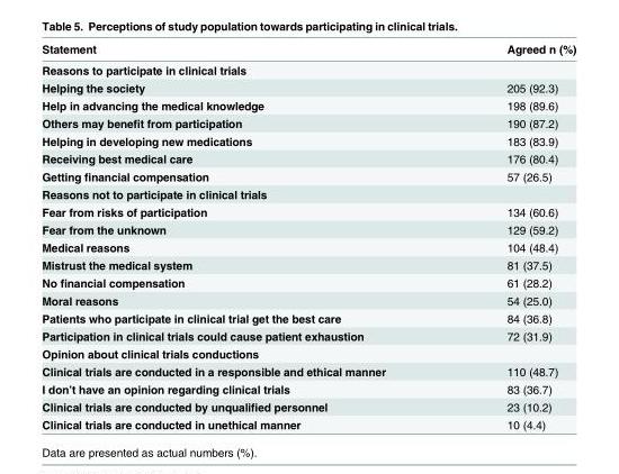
<table><thead><tr><td>Statement</td><td>Agreed n (%)</td></tr></thead><tbody><tr><td colspan="2">Reasons to participate in clinical trials</td></tr><tr><td>Helping the society</td><td>205 (92.3)</td></tr><tr><td>Help in advancing the medical knowledge</td><td>198 (89.6)</td></tr><tr><td>Others may benefit from participation</td><td>190 (87.2)</td></tr><tr><td>Helping in developing new medications</td><td>183 (83.9)</td></tr><tr><td>Receiving best medical care</td><td>176 (80.4)</td></tr><tr><td>Getting financial compensation</td><td>57 (26.5)</td></tr><tr><td colspan="2">Reasons not to participate in clinical trials</td></tr><tr><td>Fear from risks of participation</td><td>134 (60.6)</td></tr><tr><td>Fear from the unknown</td><td>129 (59.2)</td></tr><tr><td>Medical reasons</td><td>104 (48.4)</td></tr><tr><td>Mistrust the medical system</td><td>81 (37.5)</td></tr><tr><td>No financial compensation</td><td>61 (28.2)</td></tr><tr><td>Moral reasons</td><td>54 (25.0)</td></tr><tr><td>Patients who participate in clinical trial get the best care</td><td>84 (36.8)</td></tr><tr><td>Participation in clinical trials could cause patient exhaustion</td><td>72 (31.9)</td></tr><tr><td colspan="2">Opinion about clinical trials conductions</td></tr><tr><td>Clinical trials are conducted in a responsible and ethical manner</td><td>110 (48.7)</td></tr><tr><td>I don’t have an opinion regarding clinical trials</td><td>83 (36.7)</td></tr><tr><td>Clinical trials are conducted by unqualified personnel</td><td>23 (10.2)</td></tr><tr><td>Clinical trials are conducted in unethical manner</td><td>10 (4.4)</td></tr></tbody></table>